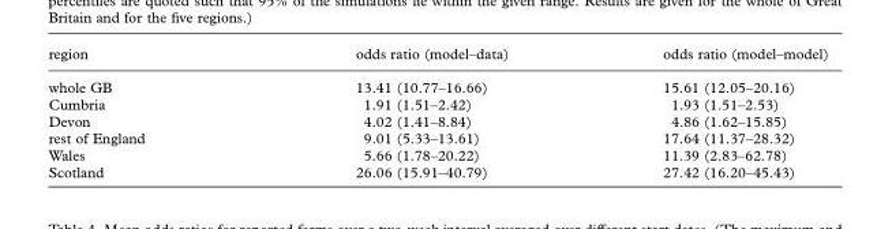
<table><thead><tr><td>region</td><td>odds ratio (model–data)</td><td>odds ratio (model–model)</td></tr></thead><tbody><tr><td>whole GB</td><td>13.41 (10.77–16.66)</td><td>15.61 (12.05–20.16)</td></tr><tr><td>Cumbria</td><td>1.91 (1.51–2.42)</td><td>1.93 (1.51–2.53)</td></tr><tr><td>Devon</td><td>4.02 (1.41–8.84)</td><td>4.86 (1.62–15.85)</td></tr><tr><td>rest of England</td><td>9.01 (5.33–13.61)</td><td>17.64 (11.37–28.32)</td></tr><tr><td>Wales</td><td>5.66 (1.78–20.22)</td><td>11.39 (2.83–62.78)</td></tr><tr><td>Scotland</td><td>26.06 (15.91–40.79)</td><td>27.42 (16.20–45.43)</td></tr></tbody></table>